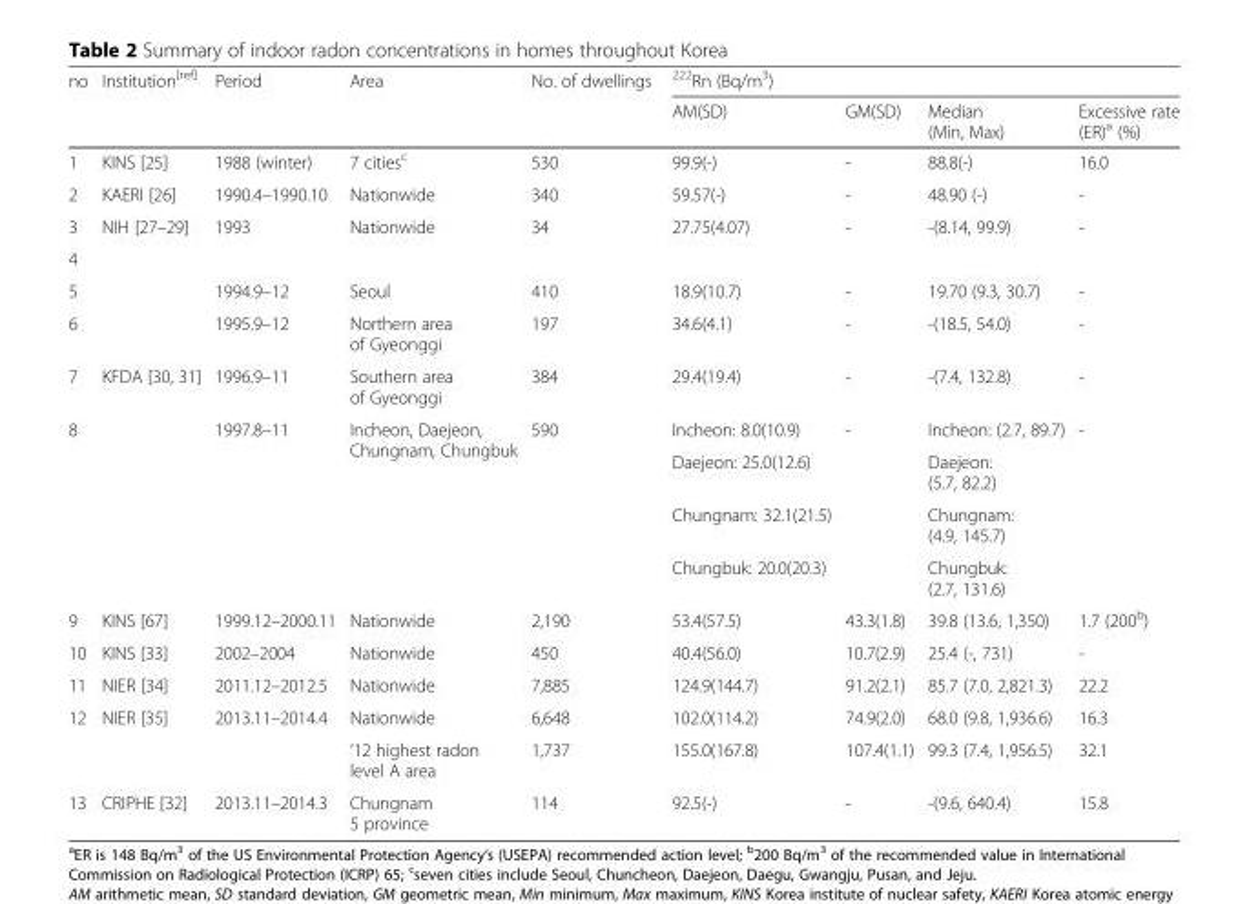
<table><thead><tr><td rowspan="2">no</td><td rowspan="2">Institution<sup>[ref]</sup></td><td rowspan="2">Period</td><td rowspan="2">Area</td><td rowspan="2">No. of dwellings</td><td colspan="4"><sup>222</sup>Rn (Bq/m<sup>3</sup>)</td></tr><tr><td>AM(SD)</td><td>GM(SD)</td><td>Median (Min, Max)</td><td>Excessive rate (ER)<sup>a</sup> (%)</td></tr></thead><tbody><tr><td>1</td><td>KINS [25]</td><td>1988 (winter)</td><td>7 cities<sup>c</sup></td><td>530</td><td>99.9(-)</td><td>-</td><td>88.8(-)</td><td>16.0</td></tr><tr><td>2</td><td>KAERI [26]</td><td>1990.4–1990.10</td><td>Nationwide</td><td>340</td><td>59.57(-)</td><td>-</td><td>48.90 (-)</td><td>-</td></tr><tr><td>3</td><td rowspan="4">NIH [27–29]</td><td rowspan="2">1993</td><td rowspan="2">Nationwide</td><td rowspan="2">34</td><td rowspan="2">27.75(4.07)</td><td rowspan="2">-</td><td rowspan="2">-(8.14, 99.9)</td><td rowspan="2">-</td></tr><tr><td>4</td></tr><tr><td>5</td><td>1994.9–12</td><td>Seoul</td><td>410</td><td>18.9(10.7)</td><td>-</td><td>19.70 (9.3, 30.7)</td><td>-</td></tr><tr><td>6</td><td>1995.9–12</td><td>Northern area of Gyeonggi</td><td>197</td><td>34.6(4.1)</td><td>-</td><td>-(18.5, 54.0)</td><td>-</td></tr><tr><td>7</td><td rowspan="5">KFDA [30, 31]</td><td>1996.9–11</td><td>Southern area of Gyeonggi</td><td>384</td><td>29.4(19.4)</td><td>-</td><td>-(7.4, 132.8)</td><td>-</td></tr><tr><td rowspan="4">8</td><td rowspan="4">1997.8–11</td><td rowspan="4">Incheon, Daejeon, Chungnam, Chungbuk</td><td rowspan="4">590</td><td>Incheon: 8.0(10.9)</td><td rowspan="4">-</td><td>Incheon: (2.7, 89.7)</td><td rowspan="4">-</td></tr><tr><td>Daejeon: 25.0(12.6)</td><td>Daejeon: (5.7, 82.2)</td></tr><tr><td>Chungnam: 32.1(21.5)</td><td>Chungnam: (4.9, 145.7)</td></tr><tr><td>Chungbuk: 20.0(20.3)</td><td>Chungbuk: (2.7, 131.6)</td></tr><tr><td>9</td><td>KINS [67]</td><td>1999.12–2000.11</td><td>Nationwide</td><td>2,190</td><td>53.4(57.5)</td><td>43.3(1.8)</td><td>39.8 (13.6, 1,350)</td><td>1.7 (200<sup>b</sup>)</td></tr><tr><td>10</td><td>KINS [33]</td><td>2002–2004</td><td>Nationwide</td><td>450</td><td>40.4(56.0)</td><td>10.7(2.9)</td><td>25.4 (-, 731)</td><td>-</td></tr><tr><td>11</td><td>NIER [34]</td><td>2011.12–2012.5</td><td>Nationwide</td><td>7,885</td><td>124.9(144.7)</td><td>91.2(2.1)</td><td>85.7 (7.0, 2,821.3)</td><td>22.2</td></tr><tr><td rowspan="2">12</td><td rowspan="2">NIER [35]</td><td rowspan="2">2013.11–2014.4</td><td>Nationwide</td><td>6,648</td><td>102.0(114.2)</td><td>74.9(2.0)</td><td>68.0 (9.8, 1,936.6)</td><td>16.3</td></tr><tr><td>‘12 highest radon level A area</td><td>1,737</td><td>155.0(167.8)</td><td>107.4(1.1)</td><td>99.3 (7.4, 1,956.5)</td><td>32.1</td></tr><tr><td>13</td><td>CRIPHE [32]</td><td>2013.11–2014.3</td><td>Chungnam 5 province</td><td>114</td><td>92.5(-)</td><td>-</td><td>-(9.6, 640.4)</td><td>15.8</td></tr></tbody></table>